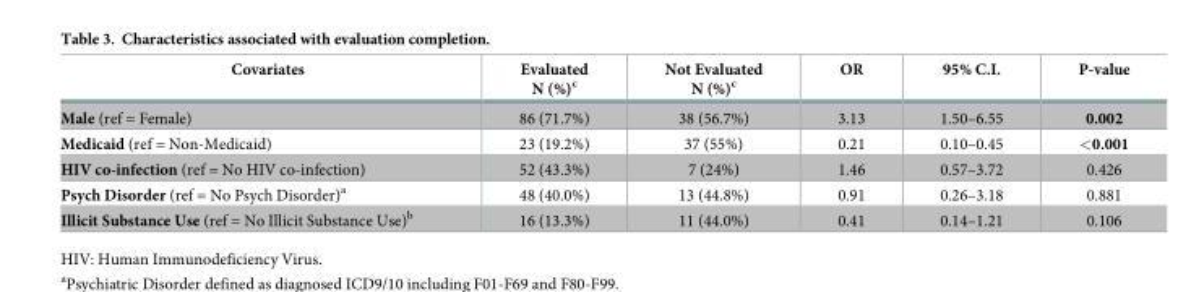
<table><thead><tr><td>Covariates</td><td>Evaluated N (%)<sup>c</sup></td><td>Not Evaluated N (%)<sup>c</sup></td><td>OR</td><td>95% C.I.</td><td>P-value</td></tr></thead><tbody><tr><td>Male (ref = Female)</td><td>86 (71.7%)</td><td>38 (56.7%)</td><td>3.13</td><td>1.50–6.55</td><td>0.002</td></tr><tr><td>Medicaid (ref = Non-Medicaid)</td><td>23 (19.2%)</td><td>37 (55%)</td><td>0.21</td><td>0.10–0.45</td><td>&lt;0.001</td></tr><tr><td>HIV co-infection (ref = No HIV co-infection)</td><td>52 (43.3%)</td><td>7 (24%)</td><td>1.46</td><td>0.57–3.72</td><td>0.426</td></tr><tr><td>Psych Disorder (ref = No Psych Disorder)<sup>a</sup></td><td>48 (40.0%)</td><td>13 (44.8%)</td><td>0.91</td><td>0.26–3.18</td><td>0.881</td></tr><tr><td>Illicit Substance Use (ref = No Illicit Substance Use)<sup>b</sup></td><td>16 (13.3%)</td><td>11 (44.0%)</td><td>0.41</td><td>0.14–1.21</td><td>0.106</td></tr></tbody></table>